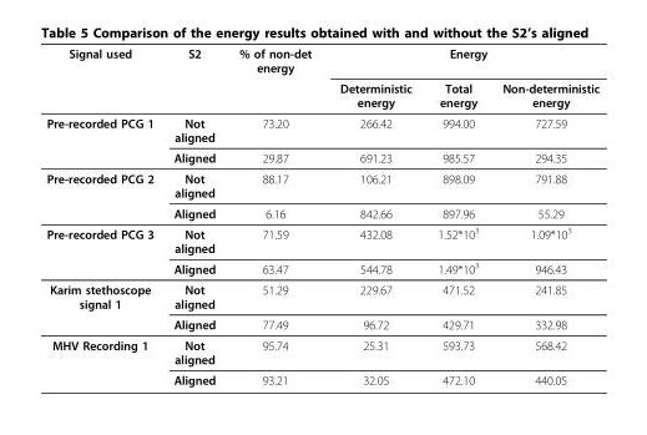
<table><thead><tr><td rowspan="2">Signal used</td><td rowspan="2">S2</td><td rowspan="2">% of non-det energy</td><td colspan="3">Energy</td></tr><tr><td>Deterministic energy</td><td>Total energy</td><td>Non-deterministic energy</td></tr></thead><tbody><tr><td rowspan="2">Pre-recorded PCG 1</td><td>Not aligned</td><td>73.20</td><td>266.42</td><td>994.00</td><td>727.59</td></tr><tr><td>Aligned</td><td>29.87</td><td>691.23</td><td>985.57</td><td>294.35</td></tr><tr><td rowspan="2">Pre-recorded PCG 2</td><td>Not aligned</td><td>88.17</td><td>106.21</td><td>898.09</td><td>791.88</td></tr><tr><td>Aligned</td><td>6.16</td><td>842.66</td><td>897.96</td><td>55.29</td></tr><tr><td rowspan="2">Pre-recorded PCG 3</td><td>Not aligned</td><td>71.59</td><td>432.08</td><td>1.52*10<sup>3</sup></td><td>1.09*10<sup>3</sup></td></tr><tr><td>Aligned</td><td>63.47</td><td>544.78</td><td>1.49*10<sup>3</sup></td><td>946.43</td></tr><tr><td rowspan="2">Karim stethoscope signal 1</td><td>Not aligned</td><td>51.29</td><td>229.67</td><td>471.52</td><td>241.85</td></tr><tr><td>Aligned</td><td>77.49</td><td>96.72</td><td>429.71</td><td>332.98</td></tr><tr><td rowspan="2">MHV Recording 1</td><td>Not aligned</td><td>95.74</td><td>25.31</td><td>593.73</td><td>568.42</td></tr><tr><td>Aligned</td><td>93.21</td><td>32.05</td><td>472.10</td><td>440.05</td></tr></tbody></table>